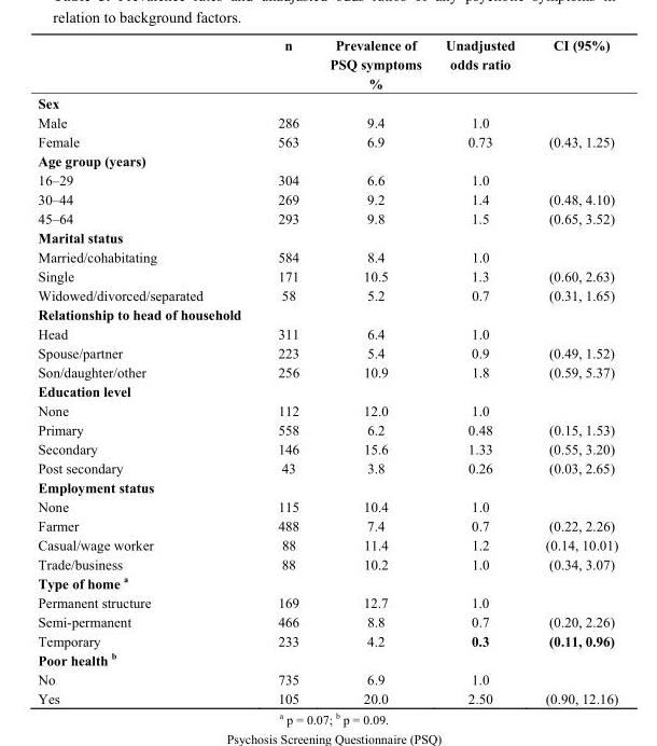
<table><thead><tr><td></td><td>n</td><td>Prevalence of PSQ symptoms %</td><td>Unadjusted odds ratio</td><td>CI (95%)</td></tr></thead><tbody><tr><td colspan="5">Sex</td></tr><tr><td>Male</td><td>286</td><td>9.4</td><td>1.0</td><td></td></tr><tr><td>Female</td><td>563</td><td>6.9</td><td>0.73</td><td>(0.43, 1.25)</td></tr><tr><td colspan="5">Age group (years)</td></tr><tr><td>16–29</td><td>304</td><td>6.6</td><td>1.0</td><td></td></tr><tr><td>30–44</td><td>269</td><td>9.2</td><td>1.4</td><td>(0.48, 4.10)</td></tr><tr><td>45–64</td><td>293</td><td>9.8</td><td>1.5</td><td>(0.65, 3.52)</td></tr><tr><td colspan="5">Marital status</td></tr><tr><td>Married/cohabitating</td><td>584</td><td>8.4</td><td>1.0</td><td></td></tr><tr><td>Single</td><td>171</td><td>10.5</td><td>1.3</td><td>(0.60, 2.63)</td></tr><tr><td>Widowed/divorced/separated</td><td>58</td><td>5.2</td><td>0.7</td><td>(0.31, 1.65)</td></tr><tr><td colspan="5">Relationship to head of household</td></tr><tr><td>Head</td><td>311</td><td>6.4</td><td>1.0</td><td></td></tr><tr><td>Spouse/partner</td><td>223</td><td>5.4</td><td>0.9</td><td>(0.49, 1.52)</td></tr><tr><td>Son/daughter/other</td><td>256</td><td>10.9</td><td>1.8</td><td>(0.59, 5.37)</td></tr><tr><td colspan="5">Education level</td></tr><tr><td>None</td><td>112</td><td>12.0</td><td>1.0</td><td></td></tr><tr><td>Primary</td><td>558</td><td>6.2</td><td>0.48</td><td>(0.15, 1.53)</td></tr><tr><td>Secondary</td><td>146</td><td>15.6</td><td>1.33</td><td>(0.55, 3.20)</td></tr><tr><td>Post secondary</td><td>43</td><td>3.8</td><td>0.26</td><td>(0.03, 2.65)</td></tr><tr><td colspan="5">Employment status</td></tr><tr><td>None</td><td>115</td><td>10.4</td><td>1.0</td><td></td></tr><tr><td>Farmer</td><td>488</td><td>7.4</td><td>0.7</td><td>(0.22, 2.26)</td></tr><tr><td>Casual/wage worker</td><td>88</td><td>11.4</td><td>1.2</td><td>(0.14, 10.01)</td></tr><tr><td>Trade/business</td><td>88</td><td>10.2</td><td>1.0</td><td>(0.34, 3.07)</td></tr><tr><td colspan="5">Type of home <sup>a</sup></td></tr><tr><td>Permanent structure</td><td>169</td><td>12.7</td><td>1.0</td><td></td></tr><tr><td>Semi-permanent</td><td>466</td><td>8.8</td><td>0.7</td><td>(0.20, 2.26)</td></tr><tr><td>Temporary</td><td>233</td><td>4.2</td><td>0.3</td><td>(0.11, 0.96)</td></tr><tr><td colspan="5">Poor health <sup>b</sup></td></tr><tr><td>No</td><td>735</td><td>6.9</td><td>1.0</td><td></td></tr><tr><td>Yes</td><td>105</td><td>20.0</td><td>2.50</td><td>(0.90, 12.16)</td></tr></tbody></table>